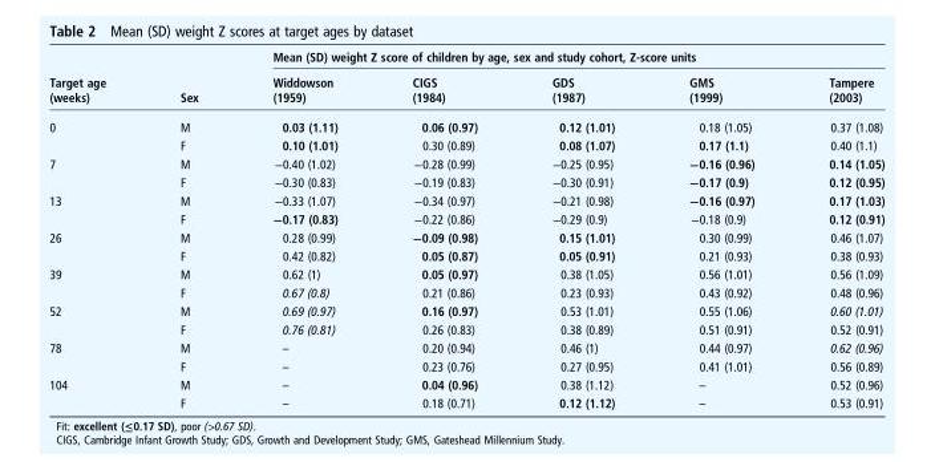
<table><thead><tr><td rowspan="2">Target age (weeks)</td><td rowspan="2">Sex</td><td colspan="5">Mean (SD) weight Z score of children by age, sex and study cohort, Z-score units</td></tr><tr><td>Widdowson (1959)</td><td>CIGS (1984)</td><td>GDS (1987)</td><td>GMS (1999)</td><td>Tampere (2003)</td></tr></thead><tbody><tr><td rowspan="2">0</td><td>M</td><td>0.03 (1.11)</td><td>0.06 (0.97)</td><td>0.12 (1.01)</td><td>0.18 (1.05)</td><td>0.37 (1.08)</td></tr><tr><td>F</td><td>0.10 (1.01)</td><td>0.30 (0.89)</td><td>0.08 (1.07)</td><td>0.17 (1.1)</td><td>0.40 (1.1)</td></tr><tr><td rowspan="2">7</td><td>M</td><td>−0.40 (1.02)</td><td>−0.28 (0.99)</td><td>−0.25 (0.95)</td><td>−0.16 (0.96)</td><td>0.14 (1.05)</td></tr><tr><td>F</td><td>−0.30 (0.83)</td><td>−0.19 (0.83)</td><td>−0.30 (0.91)</td><td>−0.17 (0.9)</td><td>0.12 (0.95)</td></tr><tr><td rowspan="2">13</td><td>M</td><td>−0.33 (1.07)</td><td>−0.34 (0.97)</td><td>−0.21 (0.98)</td><td>−0.16 (0.97)</td><td>0.17 (1.03)</td></tr><tr><td>F</td><td>−0.17 (0.83)</td><td>−0.22 (0.86)</td><td>−0.29 (0.9)</td><td>−0.18 (0.9)</td><td>0.12 (0.91)</td></tr><tr><td rowspan="2">26</td><td>M</td><td>0.28 (0.99)</td><td>−0.09 (0.98)</td><td>0.15 (1.01)</td><td>0.30 (0.99)</td><td>0.46 (1.07)</td></tr><tr><td>F</td><td>0.42 (0.82)</td><td>0.05 (0.87)</td><td>0.05 (0.91)</td><td>0.21 (0.93)</td><td>0.38 (0.93)</td></tr><tr><td rowspan="2">39</td><td>M</td><td>0.62 (1)</td><td>0.05 (0.97)</td><td>0.38 (1.05)</td><td>0.56 (1.01)</td><td>0.56 (1.09)</td></tr><tr><td>F</td><td>0.67 (0.8)</td><td>0.21 (0.86)</td><td>0.23 (0.93)</td><td>0.43 (0.92)</td><td>0.48 (0.96)</td></tr><tr><td rowspan="2">52</td><td>M</td><td>0.69 (0.97)</td><td>0.16 (0.97)</td><td>0.53 (1.01)</td><td>0.55 (1.06)</td><td>0.60 (1.01)</td></tr><tr><td>F</td><td>0.76 (0.81)</td><td>0.26 (0.83)</td><td>0.38 (0.89)</td><td>0.51 (0.91)</td><td>0.52 (0.91)</td></tr><tr><td rowspan="2">78</td><td>M</td><td>–</td><td>0.20 (0.94)</td><td>0.46 (1)</td><td>0.44 (0.97)</td><td>0.62 (0.96)</td></tr><tr><td>F</td><td>–</td><td>0.23 (0.76)</td><td>0.27 (0.95)</td><td>0.41 (1.01)</td><td>0.56 (0.89)</td></tr><tr><td rowspan="2">104</td><td>M</td><td>–</td><td>0.04 (0.96)</td><td>0.38 (1.12)</td><td>–</td><td>0.52 (0.96)</td></tr><tr><td>F</td><td>–</td><td>0.18 (0.71)</td><td>0.12 (1.12)</td><td>–</td><td>0.53 (0.91)</td></tr></tbody></table>